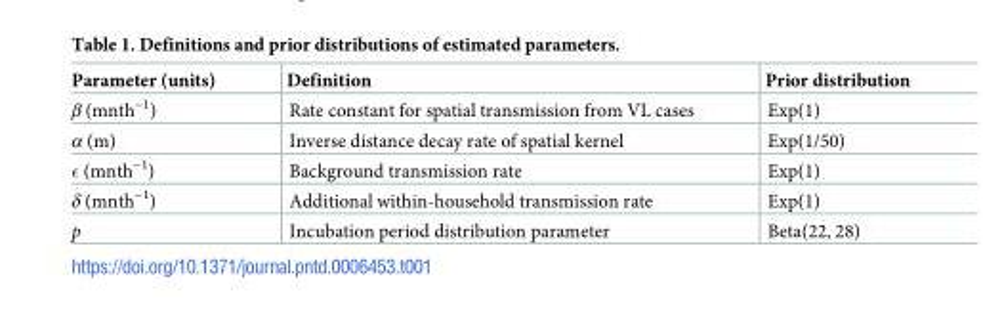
<table><thead><tr><td>Parameter (units)</td><td>Definition</td><td>Prior distribution</td></tr></thead><tbody><tr><td>β (mnth<sup>−1</sup>)</td><td>Rate constant for spatial transmission from VL cases</td><td>Exp(1)</td></tr><tr><td>α (m)</td><td>Inverse distance decay rate of spatial kernel</td><td>Exp(1/50)</td></tr><tr><td>ϵ (mnth<sup>−1</sup>)</td><td>Background transmission rate</td><td>Exp(1)</td></tr><tr><td>δ (mnth<sup>−1</sup>)</td><td>Additional within-household transmission rate</td><td>Exp(1)</td></tr><tr><td>p</td><td>Incubation period distribution parameter</td><td>Beta(22, 28)</td></tr></tbody></table>